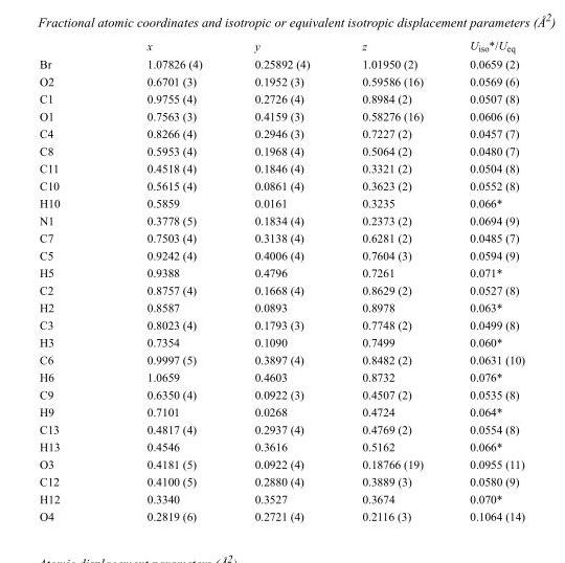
<table><thead><tr><td></td><td>x</td><td>y</td><td>z</td><td>U<sub>iso</sub>*/U<sub>eq</sub></td></tr></thead><tbody><tr><td>Br</td><td>1.07826 (4)</td><td>0.25892 (4)</td><td>1.01950 (2)</td><td>0.0659 (2)</td></tr><tr><td>O2</td><td>0.6701 (3)</td><td>0.1952 (3)</td><td>0.59586 (16)</td><td>0.0569 (6)</td></tr><tr><td>C1</td><td>0.9755 (4)</td><td>0.2726 (4)</td><td>0.8984 (2)</td><td>0.0507 (8)</td></tr><tr><td>O1</td><td>0.7563 (3)</td><td>0.4159 (3)</td><td>0.58276 (16)</td><td>0.0606 (6)</td></tr><tr><td>C4</td><td>0.8266 (4)</td><td>0.2946 (3)</td><td>0.7227 (2)</td><td>0.0457 (7)</td></tr><tr><td>C8</td><td>0.5953 (4)</td><td>0.1968 (4)</td><td>0.5064 (2)</td><td>0.0480 (7)</td></tr><tr><td>C11</td><td>0.4518 (4)</td><td>0.1846 (4)</td><td>0.3321 (2)</td><td>0.0504 (8)</td></tr><tr><td>C10</td><td>0.5615 (4)</td><td>0.0861 (4)</td><td>0.3623 (2)</td><td>0.0552 (8)</td></tr><tr><td>H10</td><td>0.5859</td><td>0.0161</td><td>0.3235</td><td>0.066*</td></tr><tr><td>N1</td><td>0.3778 (5)</td><td>0.1834 (4)</td><td>0.2373 (2)</td><td>0.0694 (9)</td></tr><tr><td>C7</td><td>0.7503 (4)</td><td>0.3138 (4)</td><td>0.6281 (2)</td><td>0.0485 (7)</td></tr><tr><td>C5</td><td>0.9242 (4)</td><td>0.4006 (4)</td><td>0.7604 (3)</td><td>0.0594 (9)</td></tr><tr><td>H5</td><td>0.9388</td><td>0.4796</td><td>0.7261</td><td>0.071*</td></tr><tr><td>C2</td><td>0.8757 (4)</td><td>0.1668 (4)</td><td>0.8629 (2)</td><td>0.0527 (8)</td></tr><tr><td>H2</td><td>0.8587</td><td>0.0893</td><td>0.8978</td><td>0.063*</td></tr><tr><td>C3</td><td>0.8023 (4)</td><td>0.1793 (3)</td><td>0.7748 (2)</td><td>0.0499 (8)</td></tr><tr><td>H3</td><td>0.7354</td><td>0.1090</td><td>0.7499</td><td>0.060*</td></tr><tr><td>C6</td><td>0.9997 (5)</td><td>0.3897 (4)</td><td>0.8482 (2)</td><td>0.0631 (10)</td></tr><tr><td>H6</td><td>1.0659</td><td>0.4603</td><td>0.8732</td><td>0.076*</td></tr><tr><td>C9</td><td>0.6350 (4)</td><td>0.0922 (3)</td><td>0.4507 (2)</td><td>0.0535 (8)</td></tr><tr><td>H9</td><td>0.7101</td><td>0.0268</td><td>0.4724</td><td>0.064*</td></tr><tr><td>C13</td><td>0.4817 (4)</td><td>0.2937 (4)</td><td>0.4769 (2)</td><td>0.0554 (8)</td></tr><tr><td>H13</td><td>0.4546</td><td>0.3616</td><td>0.5162</td><td>0.066*</td></tr><tr><td>O3</td><td>0.4181 (5)</td><td>0.0922 (4)</td><td>0.18766 (19)</td><td>0.0955 (11)</td></tr><tr><td>C12</td><td>0.4100 (5)</td><td>0.2880 (4)</td><td>0.3889 (3)</td><td>0.0580 (9)</td></tr><tr><td>H12</td><td>0.3340</td><td>0.3527</td><td>0.3674</td><td>0.070*</td></tr><tr><td>O4</td><td>0.2819 (6)</td><td>0.2721 (4)</td><td>0.2116 (3)</td><td>0.1064 (14)</td></tr></tbody></table>